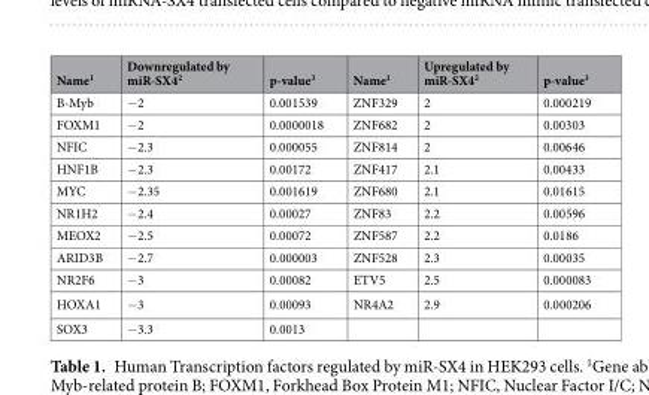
<table><thead><tr><td>Name<sup>1</sup></td><td>Downregulated by miR-SX4<sup>2</sup></td><td>p-value<sup>3</sup></td><td>Name<sup>1</sup></td><td>Upregulated by miR-SX4<sup>2</sup></td><td>p-value<sup>3</sup></td></tr></thead><tbody><tr><td>B-Myb</td><td>−2</td><td>0.001539</td><td>ZNF329</td><td>2</td><td>0.000219</td></tr><tr><td>FOXM1</td><td>−2</td><td>0.0000018</td><td>ZNF682</td><td>2</td><td>0.00303</td></tr><tr><td>NFIC</td><td>−2.3</td><td>0.000055</td><td>ZNF814</td><td>2</td><td>0.00646</td></tr><tr><td>HNF1B</td><td>−2.3</td><td>0.00172</td><td>ZNF417</td><td>2.1</td><td>0.00433</td></tr><tr><td>MYC</td><td>−2.35</td><td>0.001619</td><td>ZNF680</td><td>2.1</td><td>0.01615</td></tr><tr><td>NR1H2</td><td>−2.4</td><td>0.00027</td><td>ZNF83</td><td>2.2</td><td>0.00596</td></tr><tr><td>MEOX2</td><td>−2.5</td><td>0.00072</td><td>ZNF587</td><td>2.2</td><td>0.0186</td></tr><tr><td>ARID3B</td><td>−2.7</td><td>0.000003</td><td>ZNF528</td><td>2.3</td><td>0.00035</td></tr><tr><td>NR2F6</td><td>−3</td><td>0.00082</td><td>ETV5</td><td>2.5</td><td>0.000083</td></tr><tr><td>HOXA1</td><td>−3</td><td>0.00093</td><td>NR4A2</td><td>2.9</td><td>0.000206</td></tr><tr><td>SOX3</td><td>−3.3</td><td>0.0013</td><td></td><td></td><td></td></tr></tbody></table>